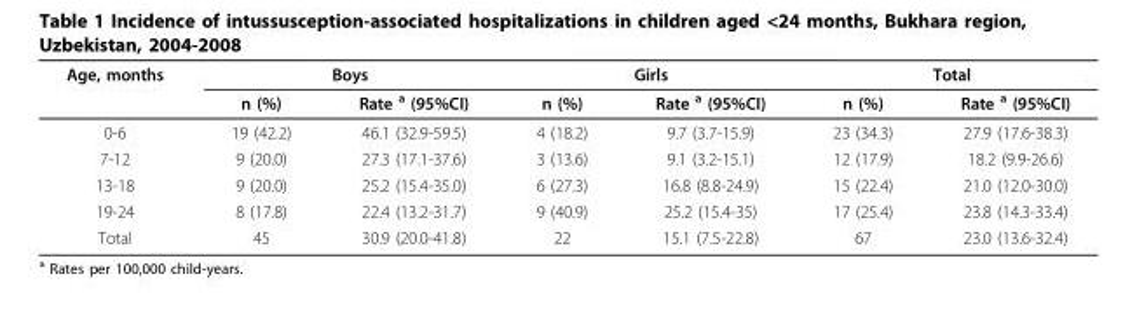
<table><thead><tr><td rowspan="2">Age, months</td><td colspan="2">Boys</td><td colspan="2">Girls</td><td colspan="2">Total</td></tr><tr><td>n (%)</td><td>Rate <sup>a</sup> (95%CI)</td><td>n (%)</td><td>Rate <sup>a</sup> (95%CI)</td><td>n (%)</td><td>Rate <sup>a</sup> (95%CI)</td></tr></thead><tbody><tr><td>0-6</td><td>19 (42.2)</td><td>46.1 (32.9-59.5)</td><td>4 (18.2)</td><td>9.7 (3.7-15.9)</td><td>23 (34.3)</td><td>27.9 (17.6-38.3)</td></tr><tr><td>7-12</td><td>9 (20.0)</td><td>27.3 (17.1-37.6)</td><td>3 (13.6)</td><td>9.1 (3.2-15.1)</td><td>12 (17.9)</td><td>18.2 (9.9-26.6)</td></tr><tr><td>13-18</td><td>9 (20.0)</td><td>25.2 (15.4-35.0)</td><td>6 (27.3)</td><td>16.8 (8.8-24.9)</td><td>15 (22.4)</td><td>21.0 (12.0-30.0)</td></tr><tr><td>19-24</td><td>8 (17.8)</td><td>22.4 (13.2-31.7)</td><td>9 (40.9)</td><td>25.2 (15.4-35)</td><td>17 (25.4)</td><td>23.8 (14.3-33.4)</td></tr><tr><td>Total</td><td>45</td><td>30.9 (20.0-41.8)</td><td>22</td><td>15.1 (7.5-22.8)</td><td>67</td><td>23.0 (13.6-32.4)</td></tr></tbody></table>